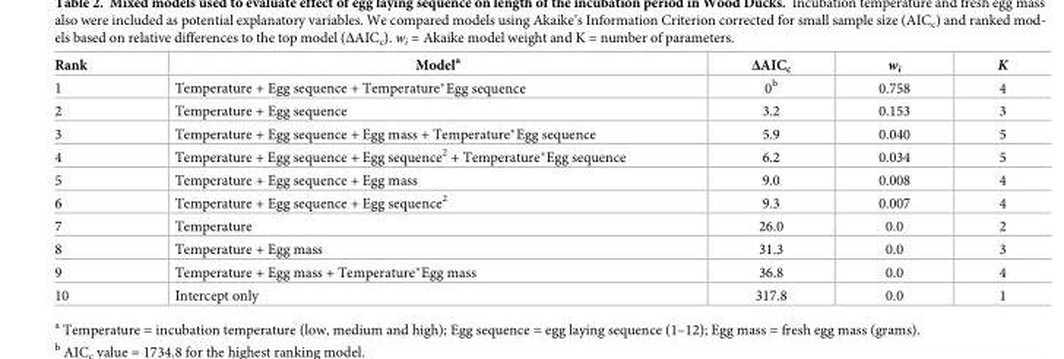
<table><thead><tr><td>Rank</td><td>Model<sup>a</sup></td><td>ΔAIC<sub>c</sub></td><td>w<sub>i</sub></td><td>K</td></tr></thead><tbody><tr><td>1</td><td>Temperature + Egg sequence + Temperature*Egg sequence</td><td>0<sup>b</sup></td><td>0.758</td><td>4</td></tr><tr><td>2</td><td>Temperature + Egg sequence</td><td>3.2</td><td>0.153</td><td>3</td></tr><tr><td>3</td><td>Temperature + Egg sequence + Egg mass + Temperature*Egg sequence</td><td>5.9</td><td>0.040</td><td>5</td></tr><tr><td>4</td><td>Temperature + Egg sequence + Egg sequence<sup>2</sup> + Temperature*Egg sequence</td><td>6.2</td><td>0.034</td><td>5</td></tr><tr><td>5</td><td>Temperature + Egg sequence + Egg mass</td><td>9.0</td><td>0.008</td><td>4</td></tr><tr><td>6</td><td>Temperature + Egg sequence + Egg sequence<sup>2</sup></td><td>9.3</td><td>0.007</td><td>4</td></tr><tr><td>7</td><td>Temperature</td><td>26.0</td><td>0.0</td><td>2</td></tr><tr><td>8</td><td>Temperature + Egg mass</td><td>31.3</td><td>0.0</td><td>3</td></tr><tr><td>9</td><td>Temperature + Egg mass + Temperature*Egg mass</td><td>36.8</td><td>0.0</td><td>4</td></tr><tr><td>10</td><td>Intercept only</td><td>317.8</td><td>0.0</td><td>1</td></tr></tbody></table>